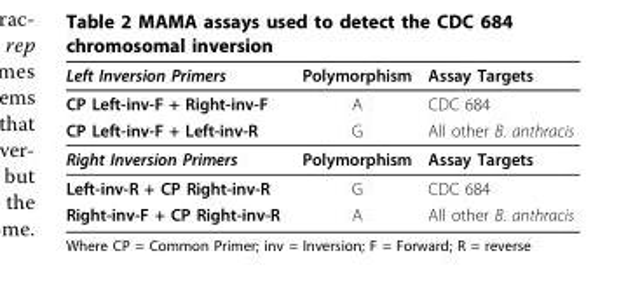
<table><thead><tr><td>Left Inversion Primers</td><td>Polymorphism</td><td>Assay Targets</td></tr></thead><tbody><tr><td>CP Left-inv-F + Right-inv-F</td><td>A</td><td>CDC 684</td></tr><tr><td>CP Left-inv-F + Left-inv-R</td><td>G</td><td>All other B. anthracis</td></tr><tr><td>Right Inversion Primers</td><td>Polymorphism</td><td>Assay Targets</td></tr><tr><td>Left-inv-R + CP Right-inv-R</td><td>G</td><td>CDC 684</td></tr><tr><td>Right-inv-F + CP Right-inv-R</td><td>A</td><td>All other B. anthracis</td></tr></tbody></table>